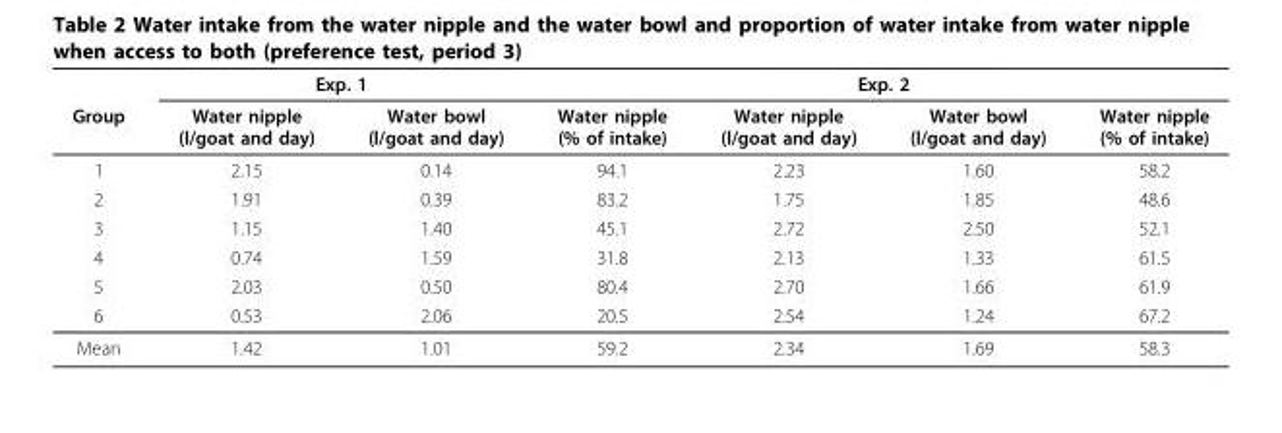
<table><thead><tr><td rowspan="2">Group</td><td colspan="2">Exp. 1</td><td rowspan="2">Water nipple (% of intake)</td><td colspan="2">Exp. 2</td><td rowspan="2">Water nipple (% of intake)</td></tr><tr><td>Water nipple (l/goat and day)</td><td>Water bowl (l/goat and day)</td><td>Water nipple (l/goat and day)</td><td>Water bowl (l/goat and day)</td></tr></thead><tbody><tr><td>1</td><td>2.15</td><td>0.14</td><td>94.1</td><td>2.23</td><td>1.60</td><td>58.2</td></tr><tr><td>2</td><td>1.91</td><td>0.39</td><td>83.2</td><td>1.75</td><td>1.85</td><td>48.6</td></tr><tr><td>3</td><td>1.15</td><td>1.40</td><td>45.1</td><td>2.72</td><td>2.50</td><td>52.1</td></tr><tr><td>4</td><td>0.74</td><td>1.59</td><td>31.8</td><td>2.13</td><td>1.33</td><td>61.5</td></tr><tr><td>5</td><td>2.03</td><td>0.50</td><td>80.4</td><td>2.70</td><td>1.66</td><td>61.9</td></tr><tr><td>6</td><td>0.53</td><td>2.06</td><td>20.5</td><td>2.54</td><td>1.24</td><td>67.2</td></tr><tr><td>Mean</td><td>1.42</td><td>1.01</td><td>59.2</td><td>2.34</td><td>1.69</td><td>58.3</td></tr></tbody></table>